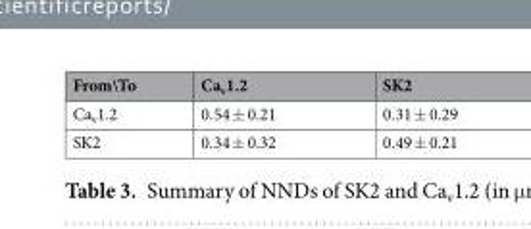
<table><thead><tr><td>From\To</td><td>Ca<sub>v</sub>1.2</td><td>SK2</td></tr></thead><tbody><tr><td>Ca<sub>v</sub>1.2</td><td>0.54 ± 0.21</td><td>0.31 ± 0.29</td></tr><tr><td>SK2</td><td>0.34 ± 0.32</td><td>0.49 ± 0.21</td></tr></tbody></table>